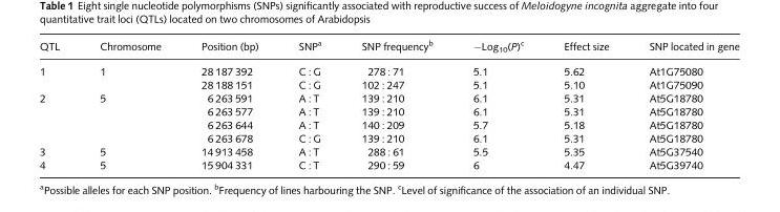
<table><thead><tr><td>QTL</td><td>Chromosome</td><td>Position (bp)</td><td>SNP<sup>a</sup></td><td>SNP frequency<sup>b</sup></td><td>−Log<sub>10</sub>(P)<sup>c</sup></td><td>Effect size</td><td>SNP located in gene</td></tr></thead><tbody><tr><td rowspan="2">1</td><td rowspan="2">1</td><td>28 187 392</td><td>C : G</td><td>278 : 71</td><td>5.1</td><td>5.62</td><td>At1G75080</td></tr><tr><td>28 188 151</td><td>C : G</td><td>102 : 247</td><td>5.1</td><td>5.10</td><td>At1G75090</td></tr><tr><td rowspan="4">2</td><td rowspan="4">5</td><td>6 263 591</td><td>A : T</td><td>139 : 210</td><td>6.1</td><td>5.31</td><td>At5G18780</td></tr><tr><td>6 263 577</td><td>A : T</td><td>139 : 210</td><td>6.1</td><td>5.31</td><td>At5G18780</td></tr><tr><td>6 263 644</td><td>A : T</td><td>140 : 209</td><td>5.7</td><td>5.18</td><td>At5G18780</td></tr><tr><td>6 263 678</td><td>C : G</td><td>139 : 210</td><td>6.1</td><td>5.31</td><td>At5G18780</td></tr><tr><td>3</td><td>5</td><td>14 913 458</td><td>A : T</td><td>288 : 61</td><td>5.5</td><td>5.35</td><td>At5G37540</td></tr><tr><td>4</td><td>5</td><td>15 904 331</td><td>C : T</td><td>290 : 59</td><td>6</td><td>4.47</td><td>At5G39740</td></tr></tbody></table>